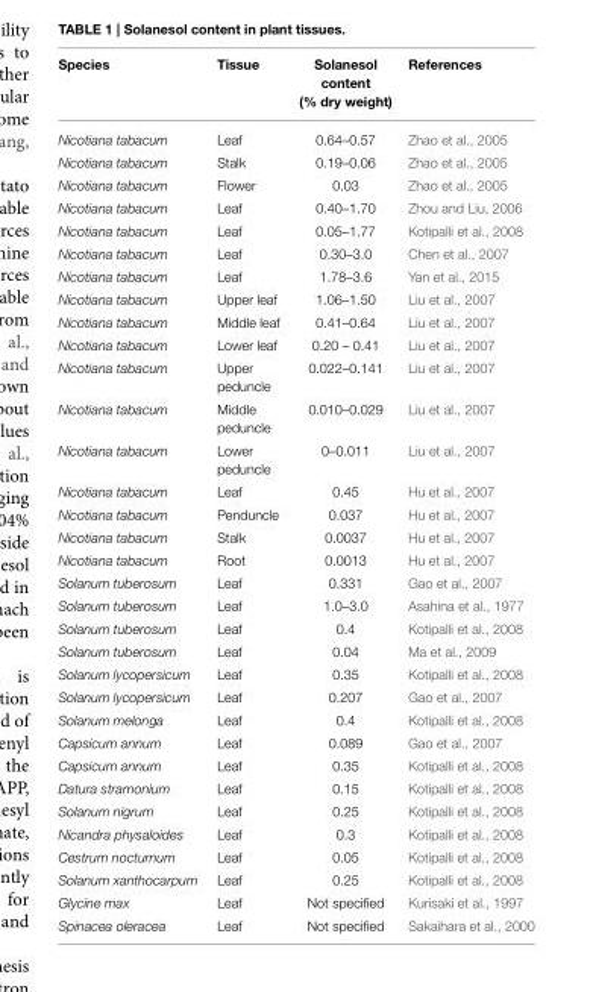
<table><thead><tr><td>Species</td><td>Tissue</td><td>Solanesol content (% dry weight)</td><td>References</td></tr></thead><tbody><tr><td>Nicotiana tabacum</td><td>Leaf</td><td>0.64–0.57</td><td>Zhao et al., 2005</td></tr><tr><td>Nicotiana tabacum</td><td>Stalk</td><td>0.19–0.06</td><td>Zhao et al., 2005</td></tr><tr><td>Nicotiana tabacum</td><td>Flower</td><td>0.03</td><td>Zhao et al., 2005</td></tr><tr><td>Nicotiana tabacum</td><td>Leaf</td><td>0.40–1.70</td><td>Zhou and Liu, 2006</td></tr><tr><td>Nicotiana tabacum</td><td>Leaf</td><td>0.05–1.77</td><td>Kotipalli et al., 2008</td></tr><tr><td>Nicotiana tabacum</td><td>Leaf</td><td>0.30–3.0</td><td>Chen et al., 2007</td></tr><tr><td>Nicotiana tabacum</td><td>Leaf</td><td>1.78–3.6</td><td>Yan et al., 2015</td></tr><tr><td>Nicotiana tabacum</td><td>Upper leaf</td><td>1.06–1.50</td><td>Liu et al., 2007</td></tr><tr><td>Nicotiana tabacum</td><td>Middle leaf</td><td>0.41–0.64</td><td>Liu et al., 2007</td></tr><tr><td>Nicotiana tabacum</td><td>Lower leaf</td><td>0.20 – 0.41</td><td>Liu et al., 2007</td></tr><tr><td>Nicotiana tabacum</td><td>Upper peduncle</td><td>0.022–0.141</td><td>Liu et al., 2007</td></tr><tr><td>Nicotiana tabacum</td><td>Middle peduncle</td><td>0.010–0.029</td><td>Liu et al., 2007</td></tr><tr><td>Nicotiana tabacum</td><td>Lower peduncle</td><td>0–0.011</td><td>Liu et al., 2007</td></tr><tr><td>Nicotiana tabacum</td><td>Leaf</td><td>0.45</td><td>Hu et al., 2007</td></tr><tr><td>Nicotiana tabacum</td><td>Penduncle</td><td>0.037</td><td>Hu et al., 2007</td></tr><tr><td>Nicotiana tabacum</td><td>Stalk</td><td>0.0037</td><td>Hu et al., 2007</td></tr><tr><td>Nicotiana tabacum</td><td>Root</td><td>0.0013</td><td>Hu et al., 2007</td></tr><tr><td>Solanum tuberosum</td><td>Leaf</td><td>0.331</td><td>Gao et al., 2007</td></tr><tr><td>Solanum tuberosum</td><td>Leaf</td><td>1.0–3.0</td><td>Asahina et al., 1977</td></tr><tr><td>Solanum tuberosum</td><td>Leaf</td><td>0.4</td><td>Kotipalli et al., 2008</td></tr><tr><td>Solanum tuberosum</td><td>Leaf</td><td>0.04</td><td>Ma et al., 2009</td></tr><tr><td>Solanum lycopersicum</td><td>Leaf</td><td>0.35</td><td>Kotipalli et al., 2008</td></tr><tr><td>Solanum lycopersicum</td><td>Leaf</td><td>0.207</td><td>Gao et al., 2007</td></tr><tr><td>Solanum melonga</td><td>Leaf</td><td>0.4</td><td>Kotipalli et al., 2008</td></tr><tr><td>Capsicum annum</td><td>Leaf</td><td>0.089</td><td>Gao et al., 2007</td></tr><tr><td>Capsicum annum</td><td>Leaf</td><td>0.35</td><td>Kotipalli et al., 2008</td></tr><tr><td>Datura stramonium</td><td>Leaf</td><td>0.15</td><td>Kotipalli et al., 2008</td></tr><tr><td>Solanum nigrum</td><td>Leaf</td><td>0.25</td><td>Kotipalli et al., 2008</td></tr><tr><td>Nicandra physaloides</td><td>Leaf</td><td>0.3</td><td>Kotipalli et al., 2008</td></tr><tr><td>Cestrum nocturnum</td><td>Leaf</td><td>0.05</td><td>Kotipalli et al., 2008</td></tr><tr><td>Solanum xanthocarpum</td><td>Leaf</td><td>0.25</td><td>Kotipalli et al., 2008</td></tr><tr><td>Glycine max</td><td>Leaf</td><td>Not specified</td><td>Kurisaki et al., 1997</td></tr><tr><td>Spinacea oleracea</td><td>Leaf</td><td>Not specified</td><td>Sakaihara et al., 2000</td></tr></tbody></table>